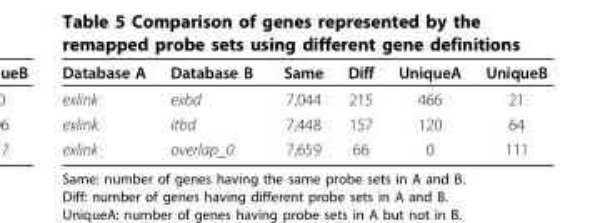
<table><thead><tr><td>Database A</td><td>Database B</td><td>Same</td><td>Diff</td><td>UniqueA</td><td>UniqueB</td></tr></thead><tbody><tr><td>exlink</td><td>exbd</td><td>7,044</td><td>215</td><td>466</td><td>21</td></tr><tr><td>exlink</td><td>itbd</td><td>7,448</td><td>157</td><td>120</td><td>64</td></tr><tr><td>exlink</td><td>overlap_0</td><td>7,659</td><td>66</td><td>0</td><td>111</td></tr></tbody></table>